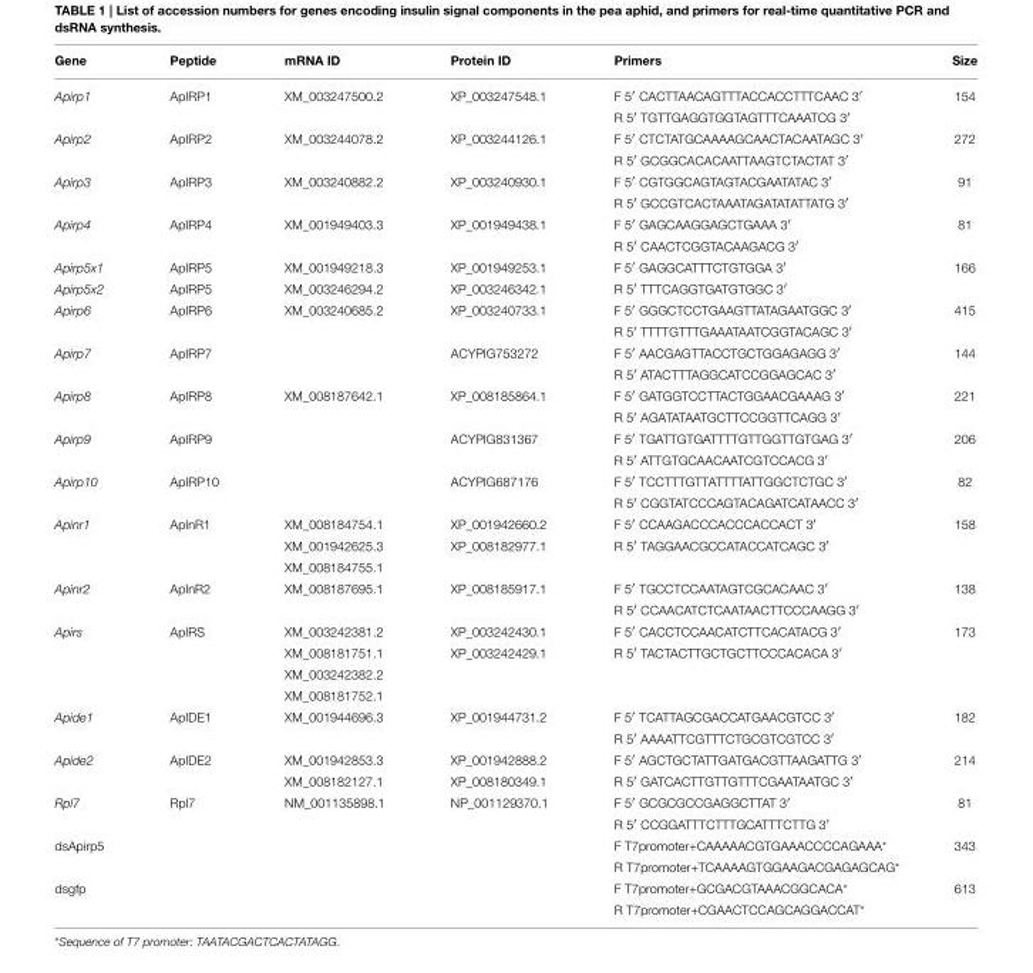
<table><thead><tr><td>Gene</td><td>Peptide</td><td>mRNA ID</td><td>Protein ID</td><td>Primers</td><td>Size</td></tr></thead><tbody><tr><td rowspan="2">Apirp1</td><td>ApIRP1</td><td>XM_003247500.2</td><td>XP_003247548.1</td><td>F 5′ CACTTAACAGTTTACCACCTTTCAAC 3′</td><td>154</td></tr><tr><td></td><td></td><td></td><td>R 5′ TGTTGAGGTGGTAGTTTCAAATCG 3′</td><td></td></tr><tr><td rowspan="2">Apirp2</td><td>ApIRP2</td><td>XM_003244078.2</td><td>XP_003244126.1</td><td>F 5′ CTCTATGCAAAAGCAACTACAATAGC 3′</td><td>272</td></tr><tr><td></td><td></td><td></td><td>R 5′ GCGGCACACAATTAAGTCTACTAT 3′</td><td></td></tr><tr><td rowspan="2">Apirp3</td><td>ApIRP3</td><td>XM_003240882.2</td><td>XP_003240930.1</td><td>F 5′ CGTGGCAGTAGTACGAATATAC 3′</td><td>91</td></tr><tr><td></td><td></td><td></td><td>R 5′ GCCGTCACTAAATAGATATATTATG 3′</td><td></td></tr><tr><td rowspan="2">Apirp4</td><td>ApIRP4</td><td>XM_001949403.3</td><td>XP_001949438.1</td><td>F 5′ GAGCAAGGAGCTGAAA 3′</td><td>81</td></tr><tr><td></td><td></td><td></td><td>R 5′ CAACTCGGTACAAGACG 3′</td><td></td></tr><tr><td>Apirp5x1</td><td>ApIRP5</td><td>XM_001949218.3</td><td>XP_001949253.1</td><td>F 5′ GAGGCATTTCTGTGGA 3′</td><td>166</td></tr><tr><td>Apirp5x2</td><td>ApIRP5</td><td>XM_003246294.2</td><td>XP_003246342.1</td><td>R 5′ TTTCAGGTGATGTGGC 3′</td><td></td></tr><tr><td rowspan="2">Apirp6</td><td>ApIRP6</td><td>XM_003240685.2</td><td>XP_003240733.1</td><td>F 5′ GGGCTCCTGAAGTTATAGAATGGC 3′</td><td>415</td></tr><tr><td></td><td></td><td></td><td>R 5′ TTTTGTTTGAAATAATCGGTACAGC 3′</td><td></td></tr><tr><td rowspan="2">Apirp7</td><td>ApIRP7</td><td></td><td>ACYPIG753272</td><td>F 5′ AACGAGTTACCTGCTGGAGAGG 3′</td><td>144</td></tr><tr><td></td><td></td><td></td><td>R 5′ ATACTTTAGGCATCCGGAGCAC 3′</td><td></td></tr><tr><td rowspan="2">Apirp8</td><td>ApIRP8</td><td>XM_008187642.1</td><td>XP_008185864.1</td><td>F 5′ GATGGTCCTTACTGGAACGAAAG 3′</td><td>221</td></tr><tr><td></td><td></td><td></td><td>R 5′ AGATATAATGCTTCCGGTTCAGG 3′</td><td></td></tr><tr><td rowspan="2">Apirp9</td><td>ApIRP9</td><td></td><td>ACYPIG831367</td><td>F 5′ TGATTGTGATTTTGTTGGTTGTGAG 3′</td><td>206</td></tr><tr><td></td><td></td><td></td><td>R 5′ ATTGTGCAACAATCGTCCACG 3′</td><td></td></tr><tr><td rowspan="2">Apirp10</td><td>ApIRP10</td><td></td><td>ACYPIG687176</td><td>F 5′ TCCTTTGTTATTTTATTGGCTCTGC 3′</td><td>82</td></tr><tr><td></td><td></td><td></td><td>R 5′ CGGTATCCCAGTACAGATCATAACC 3′</td><td></td></tr><tr><td rowspan="3">Apinr1</td><td>ApInR1</td><td>XM_008184754.1</td><td>XP_001942660.2</td><td>F 5′ CCAAGACCCACCCACCACT 3′</td><td>158</td></tr><tr><td></td><td>XM_001942625.3</td><td>XP_008182977.1</td><td>R 5′ TAGGAACGCCATACCATCAGC 3′</td><td></td></tr><tr><td></td><td>XM_008184755.1</td><td></td><td></td><td></td></tr><tr><td rowspan="2">Apinr2</td><td>ApInR2</td><td>XM_008187695.1</td><td>XP_008185917.1</td><td>F 5′ TGCCTCCAATAGTCGCACAAC 3′</td><td>138</td></tr><tr><td></td><td></td><td></td><td>R 5′ CCAACATCTCAATAACTTCCCAAGG 3′</td><td></td></tr><tr><td rowspan="4">Apirs</td><td>ApIRS</td><td>XM_003242381.2</td><td>XP_003242430.1</td><td>F 5′ CACCTCCAACATCTTCACATACG 3′</td><td>173</td></tr><tr><td></td><td>XM_008181751.1</td><td>XP_003242429.1</td><td>R 5′ TACTACTTGCTGCTTCCCACACA 3′</td><td></td></tr><tr><td></td><td>XM_003242382.2</td><td></td><td></td><td></td></tr><tr><td></td><td>XM_008181752.1</td><td></td><td></td><td></td></tr><tr><td rowspan="2">Apide1</td><td>ApIDE1</td><td>XM_001944696.3</td><td>XP_001944731.2</td><td>F 5′ TCATTAGCGACCATGAACGTCC 3′</td><td>182</td></tr><tr><td></td><td></td><td></td><td>R 5′ AAAATTCGTTTCTGCGTCGTCC 3′</td><td></td></tr><tr><td rowspan="2">Apide2</td><td>ApIDE2</td><td>XM_001942853.3</td><td>XP_001942888.2</td><td>F 5′ AGCTGCTATTGATGACGTTAAGATTG 3′</td><td>214</td></tr><tr><td></td><td>XM_008182127.1</td><td>XP_008180349.1</td><td>R 5′ GATCACTTGTTGTTTCGAATAATGC 3′</td><td></td></tr><tr><td rowspan="2">Rpl7</td><td>Rpl7</td><td>NM_001135898.1</td><td>NP_001129370.1</td><td>F 5′ GCGCGCCGAGGCTTAT 3′</td><td>81</td></tr><tr><td></td><td></td><td></td><td>R 5′ CCGGATTTCTTTGCATTTCTTG 3′</td><td></td></tr><tr><td rowspan="2">dsApirp5</td><td></td><td></td><td></td><td>F T7promoter+CAAAAACGTGAAACCCCAGAAA*</td><td>343</td></tr><tr><td></td><td></td><td></td><td colspan="2">R T7promoter+TCAAAAGTGGAAGACGAGAGCAG*</td></tr><tr><td rowspan="2">dsgfp</td><td></td><td></td><td></td><td>F T7promoter+GCGACGTAAACGGCACA*</td><td>613</td></tr><tr><td></td><td></td><td></td><td>R T7promoter+CGAACTCCAGCAGGACCAT*</td><td></td></tr></tbody></table>